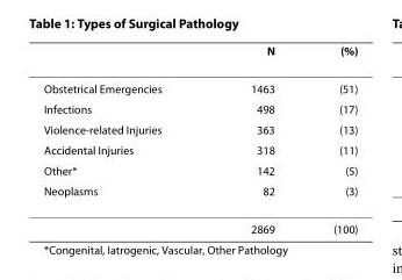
<table><thead><tr><td></td><td>N</td><td>(%)</td></tr></thead><tbody><tr><td>Obstetrical Emergencies</td><td>1463</td><td>(51)</td></tr><tr><td>Infections</td><td>498</td><td>(17)</td></tr><tr><td>Violence-related Injuries</td><td>363</td><td>(13)</td></tr><tr><td>Accidental Injuries</td><td>318</td><td>(11)</td></tr><tr><td>Other*</td><td>142</td><td>(5)</td></tr><tr><td rowspan="2">Neoplasms</td><td>82</td><td>(3)</td></tr><tr><td>2869</td><td>(100)</td></tr></tbody></table>